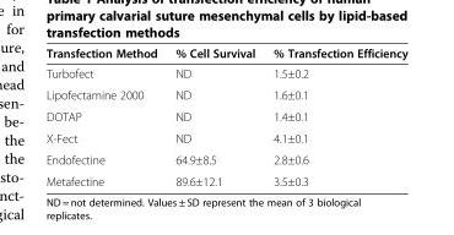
<table><thead><tr><td>Transfection Method</td><td>% Cell Survival</td><td>% Transfection Efficiency</td></tr></thead><tbody><tr><td>Turbofect</td><td>ND</td><td>1.5±0.2</td></tr><tr><td>Lipofectamine 2000</td><td>ND</td><td>1.6±0.1</td></tr><tr><td>DOTAP</td><td>ND</td><td>1.4±0.1</td></tr><tr><td>X-Fect</td><td>ND</td><td>4.1±0.1</td></tr><tr><td>Endofectine</td><td>64.9±8.5</td><td>2.8±0.6</td></tr><tr><td>Metafectine</td><td>89.6±12.1</td><td>3.5±0.3</td></tr></tbody></table>